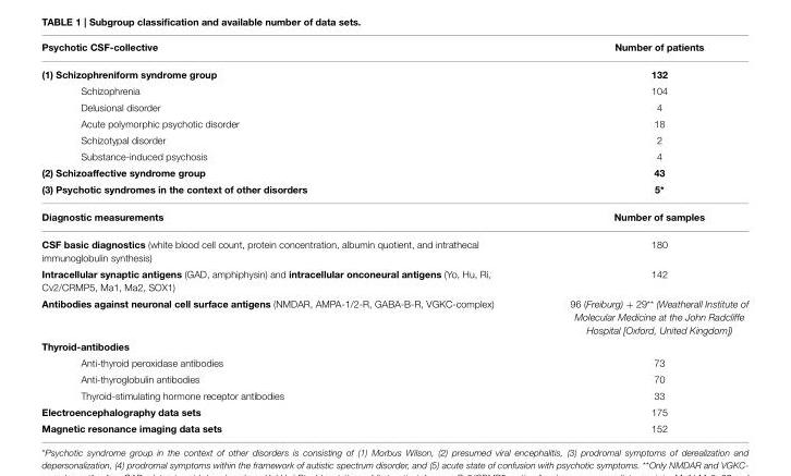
<table><thead><tr><td>Psychotic CSF-collective</td><td>Number of patients</td></tr></thead><tbody><tr><td>(1) Schizophreniform syndrome group</td><td>132</td></tr><tr><td>Schizophrenia</td><td>104</td></tr><tr><td>Delusional disorder</td><td>4</td></tr><tr><td>Acute polymorphic psychotic disorder</td><td>18</td></tr><tr><td>Schizotypal disorder</td><td>2</td></tr><tr><td>Substance-induced psychosis</td><td>4</td></tr><tr><td>(2) Schizoaffective syndrome group</td><td>43</td></tr><tr><td>(3) Psychotic syndromes in the context of other disorders</td><td>5*</td></tr><tr><td>Diagnostic measurements</td><td>Number of samples</td></tr><tr><td>CSF basic diagnostics (white blood cell count, protein concentration, albumin quotient, and intrathecal immunoglobulin synthesis)</td><td>180</td></tr><tr><td>Intracellular synaptic antigens (GAD, amphiphysin) and intracellular onconeural antigens (Yo, Hu, Ri, Cv2/CRMP5, Ma1, Ma2, SOX1)</td><td>142</td></tr><tr><td>Antibodies against neuronal cell surface antigens (NMDAR, AMPA-1/2-R, GABA-B-R, VGKC-complex)</td><td>96 (Freiburg) + 29** (Weatherall Institute of Molecular Medicine at the John Radcliffe Hospital [Oxford, United Kingdom])</td></tr><tr><td colspan="2">Thyroid-antibodies</td></tr><tr><td>Anti-thyroid peroxidase antibodies</td><td>73</td></tr><tr><td>Anti-thyroglobulin antibodies</td><td>70</td></tr><tr><td>Thyroid-stimulating hormone receptor antibodies</td><td>33</td></tr><tr><td>Electroencephalography data sets</td><td>175</td></tr><tr><td>Magnetic resonance imaging data sets</td><td>152</td></tr></tbody></table>